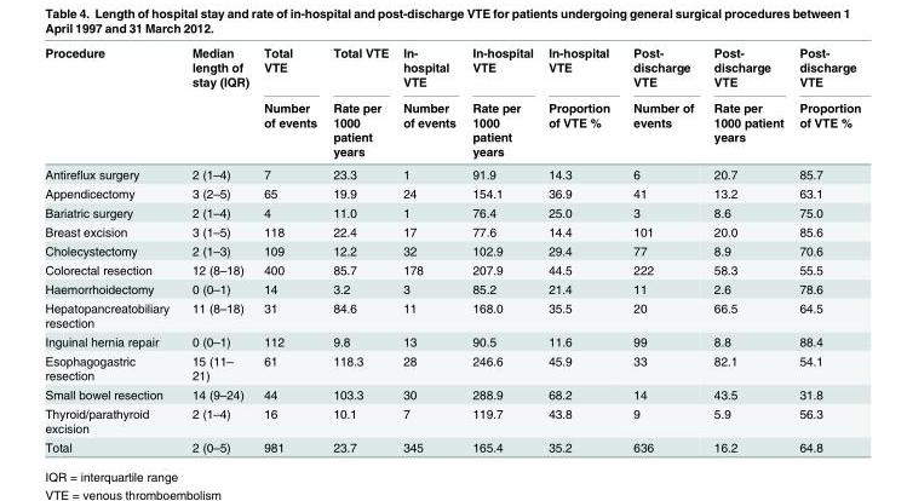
<table><thead><tr><td rowspan="2">Procedure</td><td rowspan="2">Median length of stay (IQR)</td><td rowspan="2">Total VTE Number of events</td><td rowspan="2">Total VTE Rate per 1000 patient years</td><td rowspan="2">In- hospital VTE Number of events</td><td rowspan="2">In-hospital VTE Rate per 1000 patient years</td><td rowspan="2">In-hospital VTE Proportion of VTE %</td><td rowspan="2">Post- discharge VTE Number of events</td><td rowspan="2">Post- discharge VTE Rate per 1000 patient years</td><td rowspan="2">Post- discharge VTE Proportion of VTE %</td></tr><tr></tr></thead><tbody><tr><td>Antireflux surgery</td><td>2 (1–4)</td><td>7</td><td>23.3</td><td>1</td><td>91.9</td><td>14.3</td><td>6</td><td>20.7</td><td>85.7</td></tr><tr><td>Appendicectomy</td><td>3 (2–5)</td><td>65</td><td>19.9</td><td>24</td><td>154.1</td><td>36.9</td><td>41</td><td>13.2</td><td>63.1</td></tr><tr><td>Bariatric surgery</td><td>2 (1–4)</td><td>4</td><td>11.0</td><td>1</td><td>76.4</td><td>25.0</td><td>3</td><td>8.6</td><td>75.0</td></tr><tr><td>Breast excision</td><td>3 (1–5)</td><td>118</td><td>22.4</td><td>17</td><td>77.6</td><td>14.4</td><td>101</td><td>20.0</td><td>85.6</td></tr><tr><td>Cholecystectomy</td><td>2 (1–3)</td><td>109</td><td>12.2</td><td>32</td><td>102.9</td><td>29.4</td><td>77</td><td>8.9</td><td>70.6</td></tr><tr><td>Colorectal resection</td><td>12 (8–18)</td><td>400</td><td>85.7</td><td>178</td><td>207.9</td><td>44.5</td><td>222</td><td>58.3</td><td>55.5</td></tr><tr><td>Haemorrhoidectomy</td><td>0 (0–1)</td><td>14</td><td>3.2</td><td>3</td><td>85.2</td><td>21.4</td><td>11</td><td>2.6</td><td>78.6</td></tr><tr><td>Hepatopancreatobiliary resection</td><td>11 (8–18)</td><td>31</td><td>84.6</td><td>11</td><td>168.0</td><td>35.5</td><td>20</td><td>66.5</td><td>64.5</td></tr><tr><td>Inguinal hernia repair</td><td>0 (0–1)</td><td>112</td><td>9.8</td><td>13</td><td>90.5</td><td>11.6</td><td>99</td><td>8.8</td><td>88.4</td></tr><tr><td>Esophagogastric resection</td><td>15 (11– 21)</td><td>61</td><td>118.3</td><td>28</td><td>246.6</td><td>45.9</td><td>33</td><td>82.1</td><td>54.1</td></tr><tr><td>Small bowel resection</td><td>14 (9–24)</td><td>44</td><td>103.3</td><td>30</td><td>288.9</td><td>68.2</td><td>14</td><td>43.5</td><td>31.8</td></tr><tr><td>Thyroid/parathyroid excision</td><td>2 (1–4)</td><td>16</td><td>10.1</td><td>7</td><td>119.7</td><td>43.8</td><td>9</td><td>5.9</td><td>56.3</td></tr><tr><td>Total</td><td>2 (0–5)</td><td>981</td><td>23.7</td><td>345</td><td>165.4</td><td>35.2</td><td>636</td><td>16.2</td><td>64.8</td></tr></tbody></table>